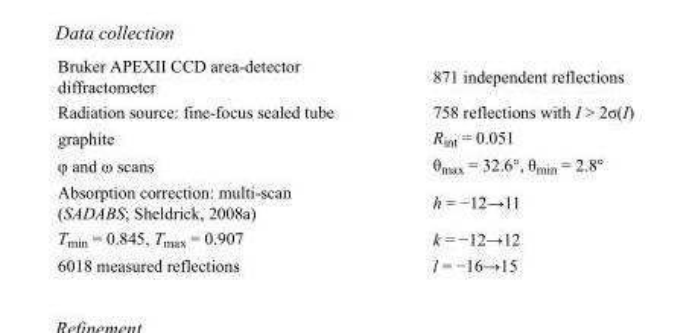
<table><tbody><tr><td>Bruker APEXII CCD area-detector diffractometer</td><td>871 independent reflections</td></tr><tr><td>Radiation source: fine-focus sealed tube</td><td>758 reflections with I &gt; 2σ(I)</td></tr><tr><td>graphite</td><td>R<sub>int</sub> = 0.051</td></tr><tr><td>φ and ω scans</td><td>θ<sub>max</sub> = 32.6°, θ<sub>min</sub> = 2.8°</td></tr><tr><td>Absorption correction: multi-scan (SADABS; Sheldrick, 2008a)</td><td>h = −12→11</td></tr><tr><td>T<sub>min</sub> = 0.845, T<sub>max</sub> = 0.907</td><td>k = −12→12</td></tr><tr><td>6018 measured reflections</td><td>l = −16→15</td></tr></tbody></table>